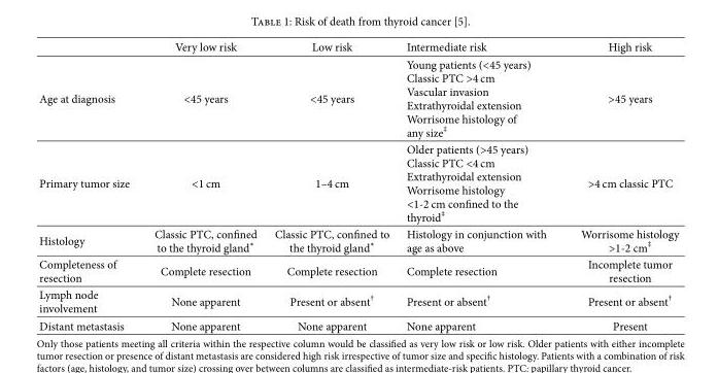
<table><thead><tr><td></td><td>Very low risk</td><td>Low risk</td><td>Intermediate risk</td><td>High risk</td></tr></thead><tbody><tr><td>Age at diagnosis</td><td>&lt;45 years</td><td>&lt;45 years</td><td>Young patients (&lt;45 years) Classic PTC &gt;4 cm Vascular invasion Extrathyroidal extension Worrisome histology of any size‡</td><td>&gt;45 years</td></tr><tr><td>Primary tumor size</td><td>&lt;1 cm</td><td>1–4 cm</td><td>Older patients (&gt;45 years) Classic PTC &lt;4 cm Extrathyroidal extension Worrisome histology &lt;1-2 cm con�ned to the thyroid‡</td><td>&gt;4 cm classic PTC</td></tr><tr><td>Histology</td><td>Classic PTC, con�ned to the thyroid gland∗</td><td>Classic PTC, con�ned to the thyroid gland∗</td><td>Histology in conjunction with age as above</td><td>Worrisome histology &gt;1-2 cm‡</td></tr><tr><td>Completeness of resection</td><td>Complete resection</td><td>Complete resection</td><td>Complete resection</td><td>Incomplete tumor resection</td></tr><tr><td>Lymph node involvement</td><td>None apparent</td><td>Present or absent†</td><td>Present or absent†</td><td>Present or absent†</td></tr><tr><td>Distant metastasis</td><td>None apparent</td><td>None apparent</td><td>None apparent</td><td>Present</td></tr></tbody></table>